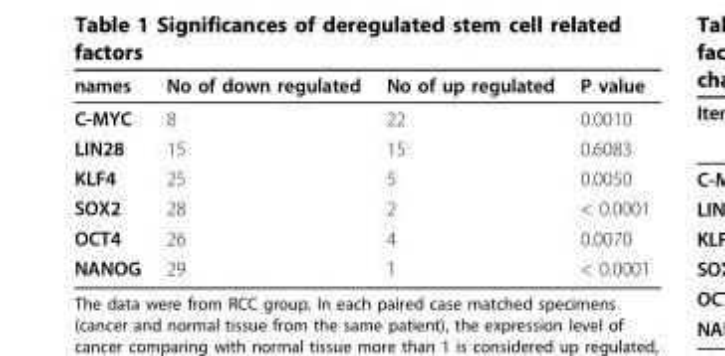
<table><tbody><tr><td>names</td><td>No of down regulated</td><td>No of up regulated</td><td>P value</td></tr><tr><td>C-MYC</td><td>8</td><td>22</td><td>0.0010</td></tr><tr><td>LIN28</td><td>15</td><td>15</td><td>0.6083</td></tr><tr><td>KLF4</td><td>25</td><td>5</td><td>0.0050</td></tr><tr><td>SOX2</td><td>28</td><td>2</td><td>&lt; 0.0001</td></tr><tr><td>OCT4</td><td>26</td><td>4</td><td>0.0070</td></tr><tr><td>NANOG</td><td>29</td><td>1</td><td>&lt; 0.0001</td></tr></tbody></table>